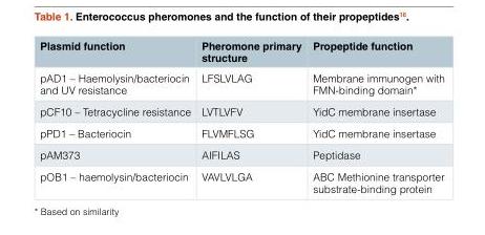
<table><thead><tr><td>Plasmid function</td><td>Pheromone primary structure</td><td>Propeptide function</td></tr></thead><tbody><tr><td>pAD1 – Haemolysin/bacteriocin and UV resistance</td><td>LFSLVLAG</td><td>Membrane immunogen with FMN-binding domain*</td></tr><tr><td>pCF10 – Tetracycline resistance</td><td>LVTLVFV</td><td>YidC membrane insertase</td></tr><tr><td>pPD1 – Bacteriocin</td><td>FLVMFLSG</td><td>YidC membrane insertase</td></tr><tr><td>pAM373</td><td>AIFILAS</td><td>Peptidase</td></tr><tr><td>pOB1 – haemolysin/bacteriocin</td><td>VAVLVLGA</td><td>ABC Methionine transporter substrate-binding protein</td></tr></tbody></table>